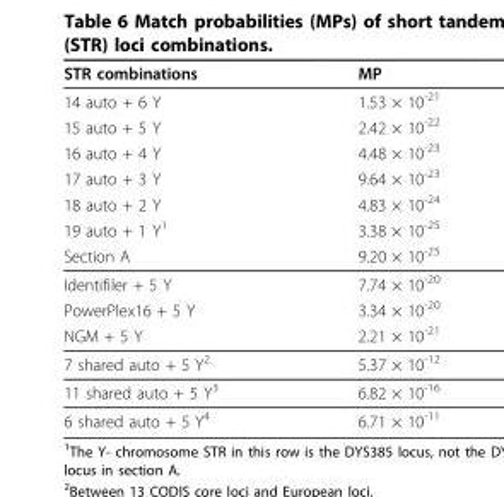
<table><thead><tr><td>STR combinations</td><td>MP</td></tr></thead><tbody><tr><td>14 auto + 6 Y</td><td>1.53 × 10<sup>-21</sup></td></tr><tr><td>15 auto + 5 Y</td><td>2.42 × 10<sup>-22</sup></td></tr><tr><td>16 auto + 4 Y</td><td>4.48 × 10<sup>-23</sup></td></tr><tr><td>17 auto + 3 Y</td><td>9.64 × 10<sup>-23</sup></td></tr><tr><td>18 auto + 2 Y</td><td>4.83 × 10<sup>-24</sup></td></tr><tr><td>19 auto + 1 Y<sup>1</sup></td><td>3.38 × 10<sup>-25</sup></td></tr><tr><td>Section A</td><td>9.20 × 10<sup>-25</sup></td></tr><tr><td>Identifiler + 5 Y</td><td>7.74 × 10<sup>-20</sup></td></tr><tr><td>PowerPlex16 + 5 Y</td><td>3.34 × 10<sup>-20</sup></td></tr><tr><td>NGM + 5 Y</td><td>2.21 × 10<sup>-21</sup></td></tr><tr><td>7 shared auto + 5 Y<sup>2</sup></td><td>5.37 × 10<sup>-12</sup></td></tr><tr><td>11 shared auto + 5 Y<sup>3</sup></td><td>6.82 × 10<sup>-16</sup></td></tr><tr><td>6 shared auto + 5 Y<sup>4</sup></td><td>6.71 × 10<sup>-11</sup></td></tr></tbody></table>